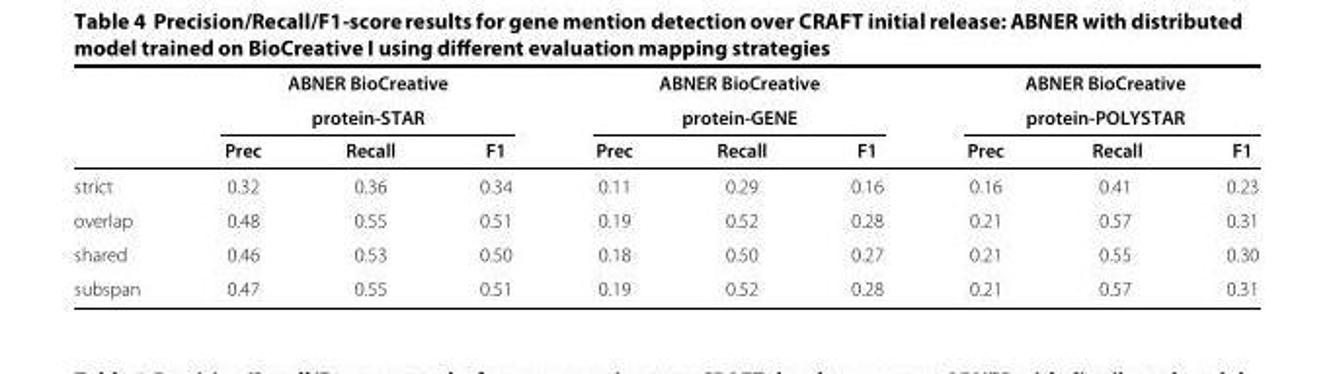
<table><thead><tr><td rowspan="2"></td><td colspan="3">ABNER BioCreative protein-STAR</td><td colspan="3">ABNER BioCreative protein-GENE</td><td colspan="3">ABNER BioCreative protein-POLYSTAR</td></tr><tr><td>Prec</td><td>Recall</td><td>F1</td><td>Prec</td><td>Recall</td><td>F1</td><td>Prec</td><td>Recall</td><td>F1</td></tr></thead><tbody><tr><td>strict</td><td>0.32</td><td>0.36</td><td>0.34</td><td>0.11</td><td>0.29</td><td>0.16</td><td>0.16</td><td>0.41</td><td>0.23</td></tr><tr><td>overlap</td><td>0.48</td><td>0.55</td><td>0.51</td><td>0.19</td><td>0.52</td><td>0.28</td><td>0.21</td><td>0.57</td><td>0.31</td></tr><tr><td>shared</td><td>0.46</td><td>0.53</td><td>0.50</td><td>0.18</td><td>0.50</td><td>0.27</td><td>0.21</td><td>0.55</td><td>0.30</td></tr><tr><td>subspan</td><td>0.47</td><td>0.55</td><td>0.51</td><td>0.19</td><td>0.52</td><td>0.28</td><td>0.21</td><td>0.57</td><td>0.31</td></tr></tbody></table>